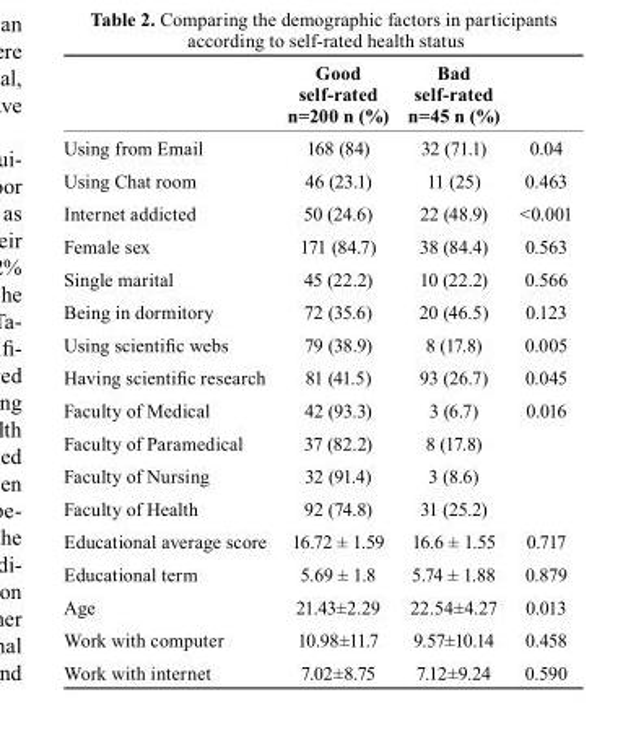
<table><thead><tr><td></td><td>Good self-rated n=200 n (%)</td><td>bad self-rated n=45 n (%)</td><td></td></tr></thead><tbody><tr><td>Using from Email</td><td>168 (84)</td><td>32 (71.1)</td><td>0.04</td></tr><tr><td>Using Chat room</td><td>46 (23.1)</td><td>11 (25)</td><td>0.463</td></tr><tr><td>Internet addicted</td><td>50 (24.6)</td><td>22 (48.9)</td><td>&lt;0.001</td></tr><tr><td>Female sex</td><td>171 (84.7)</td><td>38 (84.4)</td><td>0.563</td></tr><tr><td>Single marital</td><td>45 (22.2)</td><td>10 (22.2)</td><td>0.566</td></tr><tr><td>Being in dormitory</td><td>72 (35.6)</td><td>20 (46.5)</td><td>0.123</td></tr><tr><td>Using scientific webs</td><td>79 (38.9)</td><td>8 (17.8)</td><td>0.005</td></tr><tr><td>Having scientific research</td><td>81 (41.5)</td><td>93 (26.7)</td><td>0.045</td></tr><tr><td>Faculty of Medical</td><td>42 (93.3)</td><td>3 (6.7)</td><td>0.016</td></tr><tr><td>Faculty of Paramedical</td><td>37 (82.2)</td><td>8 (17.8)</td><td></td></tr><tr><td>Faculty of Nursing</td><td>32 (91.4)</td><td>3 (8.6)</td><td></td></tr><tr><td>Faculty of Health</td><td>92 (74.8)</td><td>31 (25.2)</td><td></td></tr><tr><td>Educational average score</td><td>16.72 ± 1.59</td><td>16.6 ± 1.55</td><td>0.717</td></tr><tr><td>Educational term</td><td>5.69 ± 1.8</td><td>5.74 ± 1.88</td><td>0.879</td></tr><tr><td>Age</td><td>21.43±2.29</td><td>22.54±4.27</td><td>0.013</td></tr><tr><td>Work with computer</td><td>10.98±11.7</td><td>9.57±10.14</td><td>0.458</td></tr><tr><td>Work with internet</td><td>7.02±8.75</td><td>7.12±9.24</td><td>0.590</td></tr></tbody></table>